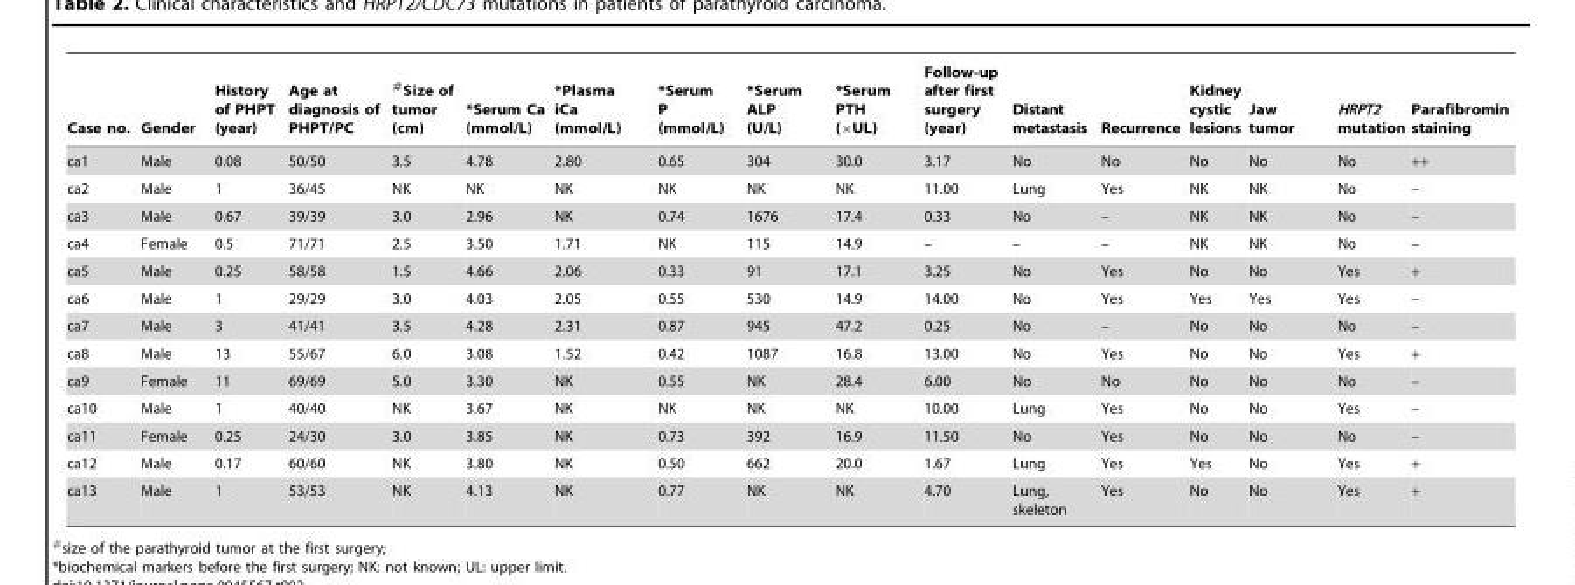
<table><thead><tr><td>Case no.</td><td>Gender</td><td>History of PHPT (year)</td><td>Age at diagnosis of PHPT/PC</td><td>#Size of tumor (cm)</td><td>*Serum Ca (mmol/L)</td><td>*Plasma iCa (mmol/L)</td><td>*Serum P (mmol/L)</td><td>*Serum ALP (U/L)</td><td>*Serum PTH (×UL)</td><td>Follow-up after first surgery (year)</td><td>Distant metastasis</td><td>Recurrence</td><td>Kidney cystic lesions</td><td>Jaw tumor</td><td>HRPT2 mutation</td><td>Parafibromin staining</td></tr></thead><tbody><tr><td>ca1</td><td>Male</td><td>0.08</td><td>50/50</td><td>3.5</td><td>4.78</td><td>2.80</td><td>0.65</td><td>304</td><td>30.0</td><td>3.17</td><td>No</td><td>No</td><td>No</td><td>No</td><td>No</td><td>++</td></tr><tr><td>ca2</td><td>Male</td><td>1</td><td>36/45</td><td>NK</td><td>NK</td><td>NK</td><td>NK</td><td>NK</td><td>NK</td><td>11.00</td><td>Lung</td><td>Yes</td><td>NK</td><td>NK</td><td>No</td><td>–</td></tr><tr><td>ca3</td><td>Male</td><td>0.67</td><td>39/39</td><td>3.0</td><td>2.96</td><td>NK</td><td>0.74</td><td>1676</td><td>17.4</td><td>0.33</td><td>No</td><td>–</td><td>NK</td><td>NK</td><td>No</td><td>–</td></tr><tr><td>ca4</td><td>Female</td><td>0.5</td><td>71/71</td><td>2.5</td><td>3.50</td><td>1.71</td><td>NK</td><td>115</td><td>14.9</td><td>–</td><td>–</td><td>–</td><td>NK</td><td>NK</td><td>No</td><td>–</td></tr><tr><td>ca5</td><td>Male</td><td>0.25</td><td>58/58</td><td>1.5</td><td>4.66</td><td>2.06</td><td>0.33</td><td>91</td><td>17.1</td><td>3.25</td><td>No</td><td>Yes</td><td>No</td><td>No</td><td>Yes</td><td>+</td></tr><tr><td>ca6</td><td>Male</td><td>1</td><td>29/29</td><td>3.0</td><td>4.03</td><td>2.05</td><td>0.55</td><td>530</td><td>14.9</td><td>14.00</td><td>No</td><td>Yes</td><td>Yes</td><td>Yes</td><td>Yes</td><td>–</td></tr><tr><td>ca7</td><td>Male</td><td>3</td><td>41/41</td><td>3.5</td><td>4.28</td><td>2.31</td><td>0.87</td><td>945</td><td>47.2</td><td>0.25</td><td>No</td><td>–</td><td>No</td><td>No</td><td>No</td><td>–</td></tr><tr><td>ca8</td><td>Male</td><td>13</td><td>55/67</td><td>6.0</td><td>3.08</td><td>1.52</td><td>0.42</td><td>1087</td><td>16.8</td><td>13.00</td><td>No</td><td>Yes</td><td>No</td><td>No</td><td>Yes</td><td>+</td></tr><tr><td>ca9</td><td>Female</td><td>11</td><td>69/69</td><td>5.0</td><td>3.30</td><td>NK</td><td>0.55</td><td>NK</td><td>28.4</td><td>6.00</td><td>No</td><td>No</td><td>No</td><td>No</td><td>No</td><td>–</td></tr><tr><td>ca10</td><td>Male</td><td>1</td><td>40/40</td><td>NK</td><td>3.67</td><td>NK</td><td>NK</td><td>NK</td><td>NK</td><td>10.00</td><td>Lung</td><td>Yes</td><td>No</td><td>No</td><td>Yes</td><td>–</td></tr><tr><td>ca11</td><td>Female</td><td>0.25</td><td>24/30</td><td>3.0</td><td>3.85</td><td>NK</td><td>0.73</td><td>392</td><td>16.9</td><td>11.50</td><td>No</td><td>Yes</td><td>No</td><td>No</td><td>No</td><td>–</td></tr><tr><td>ca12</td><td>Male</td><td>0.17</td><td>60/60</td><td>NK</td><td>3.80</td><td>NK</td><td>0.50</td><td>662</td><td>20.0</td><td>1.67</td><td>Lung</td><td>Yes</td><td>Yes</td><td>No</td><td>Yes</td><td>+</td></tr><tr><td>ca13</td><td>Male</td><td>1</td><td>53/53</td><td>NK</td><td>4.13</td><td>NK</td><td>0.77</td><td>NK</td><td>NK</td><td>4.70</td><td>Lung, skeleton</td><td>Yes</td><td>No</td><td>No</td><td>Yes</td><td>+</td></tr></tbody></table>